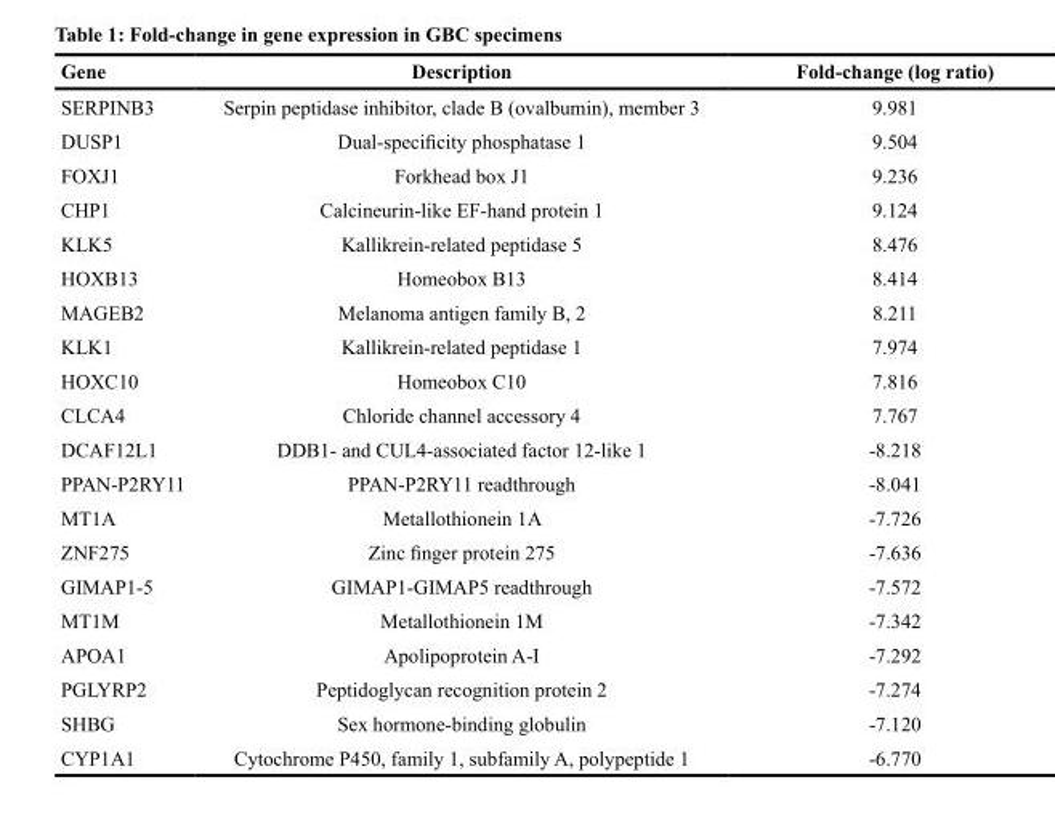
<table><thead><tr><td>Gene</td><td>Description</td><td>Fold-change (log ratio)</td></tr></thead><tbody><tr><td>SERPINB3</td><td>Serpin peptidase inhibitor, clade B (ovalbumin), member 3</td><td>9.981</td></tr><tr><td>DUSP1</td><td>Dual-specificity phosphatase 1</td><td>9.504</td></tr><tr><td>FOXJ1</td><td>Forkhead box J1</td><td>9.236</td></tr><tr><td>CHP1</td><td>Calcineurin-like EF-hand protein 1</td><td>9.124</td></tr><tr><td>KLK5</td><td>Kallikrein-related peptidase 5</td><td>8.476</td></tr><tr><td>HOXB13</td><td>Homeobox B13</td><td>8.414</td></tr><tr><td>MAGEB2</td><td>Melanoma antigen family B, 2</td><td>8.211</td></tr><tr><td>KLK1</td><td>Kallikrein-related peptidase 1</td><td>7.974</td></tr><tr><td>HOXC10</td><td>Homeobox C10</td><td>7.816</td></tr><tr><td>CLCA4</td><td>Chloride channel accessory 4</td><td>7.767</td></tr><tr><td>DCAF12L1</td><td>DDB1- and CUL4-associated factor 12-like 1</td><td>-8.218</td></tr><tr><td>PPAN-P2RY11</td><td>PPAN-P2RY11 readthrough</td><td>-8.041</td></tr><tr><td>MT1A</td><td>Metallothionein 1A</td><td>-7.726</td></tr><tr><td>ZNF275</td><td>Zinc finger protein 275</td><td>-7.636</td></tr><tr><td>GIMAP1-5</td><td>GIMAP1-GIMAP5 readthrough</td><td>-7.572</td></tr><tr><td>MT1M</td><td>Metallothionein 1M</td><td>-7.342</td></tr><tr><td>APOA1</td><td>Apolipoprotein A-I</td><td>-7.292</td></tr><tr><td>PGLYRP2</td><td>Peptidoglycan recognition protein 2</td><td>-7.274</td></tr><tr><td>SHBG</td><td>Sex hormone-binding globulin</td><td>-7.120</td></tr><tr><td>CYP1A1</td><td>Cytochrome P450, family 1, subfamily A, polypeptide 1</td><td>-6.770</td></tr></tbody></table>